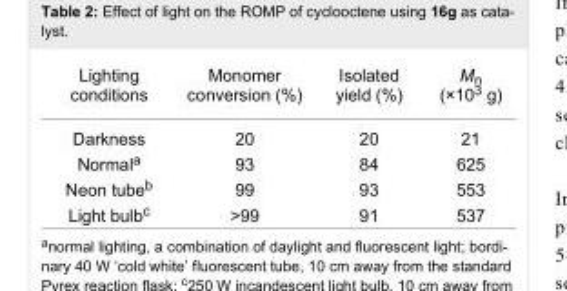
<table><tbody><tr><td>Lighting conditions</td><td>Monomer conversion (%)</td><td>Isolated yield (%)</td><td>M<sub>n</sub> (×10<sup>3</sup> g)</td></tr><tr><td>Darkness</td><td>20</td><td>20</td><td>21</td></tr><tr><td>Normal<sup>a</sup></td><td>93</td><td>84</td><td>625</td></tr><tr><td>Neon tube<sup>b</sup></td><td>99</td><td>93</td><td>553</td></tr><tr><td>Light bulb<sup>c</sup></td><td>&gt;99</td><td>91</td><td>537</td></tr></tbody></table>